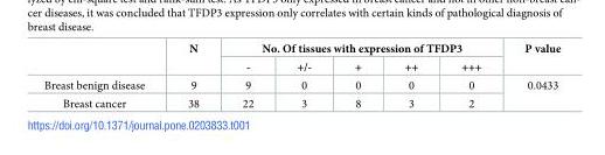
<table><thead><tr><td rowspan="2"></td><td rowspan="2">N</td><td colspan="5">No. Of tissues with expression of TFDP3</td><td rowspan="2">P value</td></tr><tr><td>-</td><td>+/-</td><td>+</td><td>++</td><td>+++</td></tr></thead><tbody><tr><td>Breast benign disease</td><td>9</td><td>9</td><td>0</td><td>0</td><td>0</td><td>0</td><td rowspan="2">0.0433</td></tr><tr><td>Breast cancer</td><td>38</td><td>22</td><td>3</td><td>8</td><td>3</td><td>2</td></tr></tbody></table>